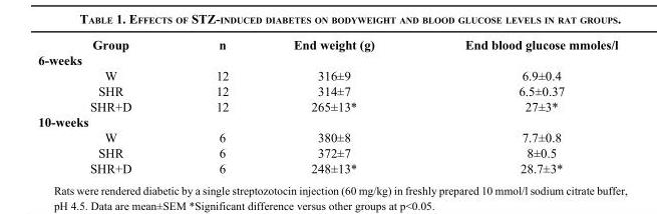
<table><thead><tr><td>Group</td><td>n</td><td>End weight (g)</td><td>End blood glucose mmoles/l</td></tr><tr><td colspan="4">6-weeks</td></tr></thead><tbody><tr><td>W</td><td>12</td><td>316±9</td><td>6.9±0.4</td></tr><tr><td>SHR</td><td>12</td><td>314±7</td><td>6.5±0.37</td></tr><tr><td>SHR+D</td><td>12</td><td>265±13*</td><td>27±3*</td></tr><tr><td colspan="4">10-weeks</td></tr><tr><td>W</td><td>6</td><td>380±8</td><td>7.7±0.8</td></tr><tr><td>SHR</td><td>6</td><td>372±7</td><td>8±0.5</td></tr><tr><td>SHR+D</td><td>6</td><td>248±13*</td><td>28.7±3*</td></tr></tbody></table>